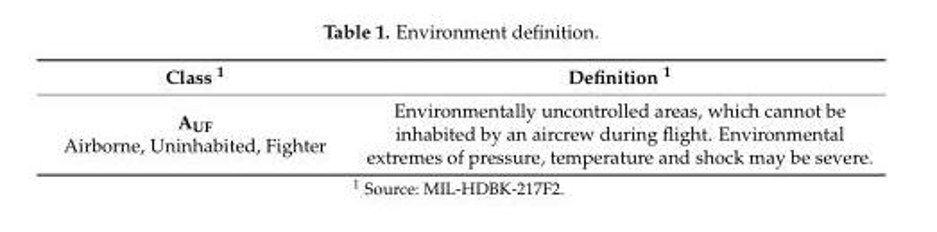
<table><thead><tr><td>Class <sup>1</sup></td><td>Definition <sup>1</sup></td></tr></thead><tbody><tr><td>A<sub>UF</sub> Airborne, Uninhabited, Fighter</td><td>Environmentally uncontrolled areas, which cannot be inhabited by an aircrew during flight. Environmental extremes of pressure, temperature and shock may be severe.</td></tr></tbody></table>